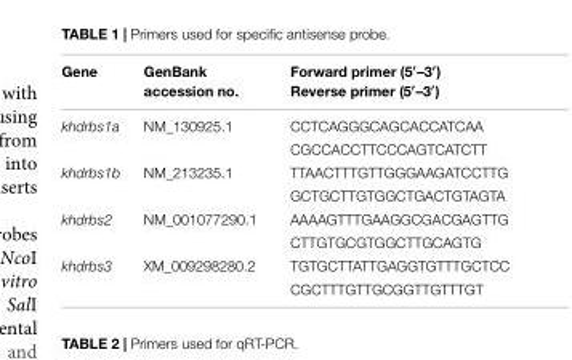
<table><thead><tr><td>Gene</td><td>GenBank accession no.</td><td>Forward primer (5′–3′) Reverse primer (5′–3′)</td></tr></thead><tbody><tr><td rowspan="2">khdrbs1a</td><td>NM_130925.1</td><td>CCTCAGGGCAGCACCATCAA</td></tr><tr><td></td><td>CGCCACCTTCCCAGTCATCTT</td></tr><tr><td rowspan="2">khdrbs1b</td><td>NM_213235.1</td><td>TTAACTTTGTTGGGAAGATCCTTG</td></tr><tr><td></td><td>GCTGCTTGTGGCTGACTGTAGTA</td></tr><tr><td rowspan="2">khdrbs2</td><td>NM_001077290.1</td><td>AAAAGTTTGAAGGCGACGAGTTG</td></tr><tr><td></td><td>CTTGTGCGTGGCTTGCAGTG</td></tr><tr><td rowspan="2">khdrbs3</td><td>XM_009298280.2</td><td>TGTGCTTATTGAGGTGTTTGCTCC</td></tr><tr><td></td><td>CGCTTTGTTGCGGTTGTTTGT</td></tr></tbody></table>